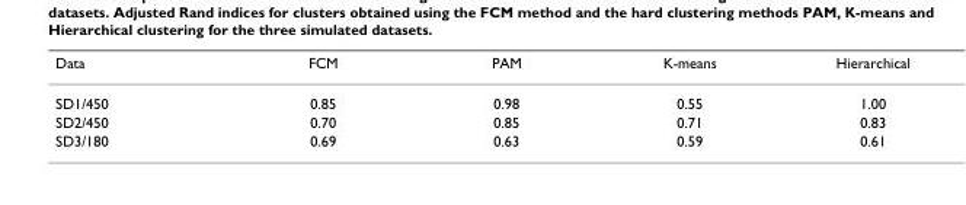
<table><thead><tr><td>Data</td><td>FCM</td><td>PAM</td><td>K-means</td><td>Hierarchical</td></tr></thead><tbody><tr><td>SD1/450</td><td>0.85</td><td>0.98</td><td>0.55</td><td>1.00</td></tr><tr><td>SD2/450</td><td>0.70</td><td>0.85</td><td>0.71</td><td>0.83</td></tr><tr><td>SD3/180</td><td>0.69</td><td>0.63</td><td>0.59</td><td>0.61</td></tr></tbody></table>